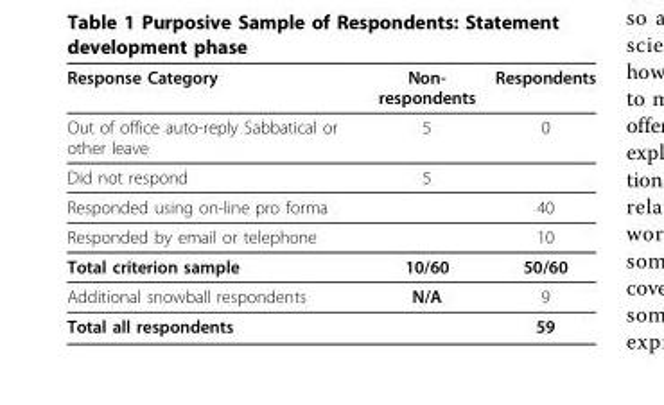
<table><thead><tr><td>Response Category</td><td>Non- respondents</td><td>Respondents</td></tr></thead><tbody><tr><td>Out of office auto-reply Sabbatical or other leave</td><td>5</td><td>0</td></tr><tr><td>Did not respond</td><td>5</td><td></td></tr><tr><td>Responded using on-line pro forma</td><td></td><td>40</td></tr><tr><td>Responded by email or telephone</td><td></td><td>10</td></tr><tr><td>Total criterion sample</td><td>10/60</td><td>50/60</td></tr><tr><td>Additional snowball respondents</td><td>N/A</td><td>9</td></tr><tr><td>Total all respondents</td><td></td><td>59</td></tr></tbody></table>